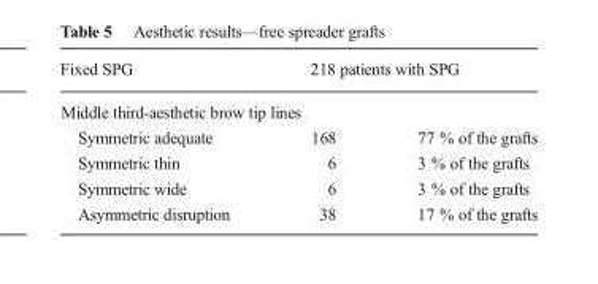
<table><thead><tr><td>Fixed SPG</td><td colspan="2">218 patients with SPG</td></tr><tr><td colspan="3">Middle third-aesthetic brow tip lines</td></tr><tr><td>Symmetric adequate</td><td>168</td><td>77 % of the grafts</td></tr></thead><tbody><tr><td>Symmetric thin</td><td>6</td><td>3 % of the grafts</td></tr><tr><td>Symmetric wide</td><td>6</td><td>3 % of the grafts</td></tr><tr><td>Asymmetric disruption</td><td>38</td><td>17 % of the grafts</td></tr></tbody></table>